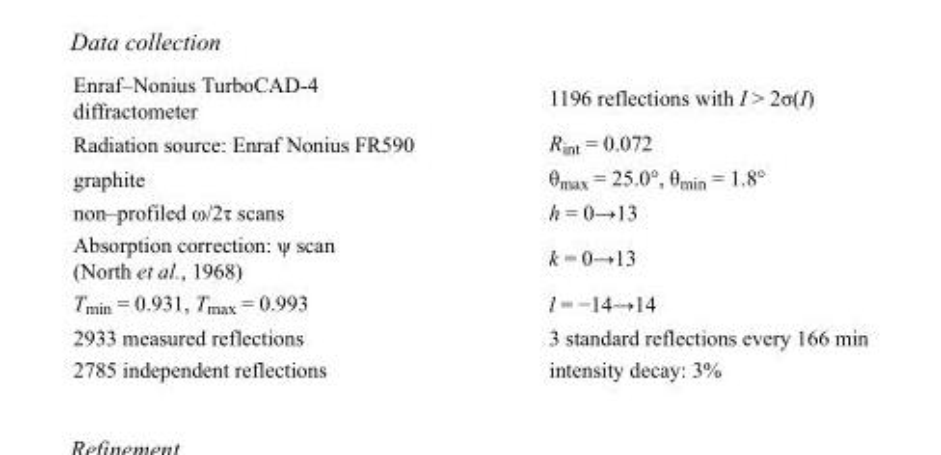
<table><tbody><tr><td>Enraf–Nonius TurboCAD-4 diffractometer</td><td>1196 reflections with I &gt; 2σ(I)</td></tr><tr><td>Radiation source: Enraf Nonius FR590</td><td>R<sub>int</sub> = 0.072</td></tr><tr><td>graphite</td><td>θ<sub>max</sub> = 25.0°, θ<sub>min</sub> = 1.8°</td></tr><tr><td>non–profiled ω/2τ scans</td><td>h = 0→13</td></tr><tr><td>Absorption correction: ψ scan (North et al., 1968)</td><td>k = 0→13</td></tr><tr><td>T<sub>min</sub> = 0.931, T<sub>max</sub> = 0.993</td><td>l = −14→14</td></tr><tr><td>2933 measured reflections</td><td>3 standard reflections every 166 min</td></tr><tr><td>2785 independent reflections</td><td>intensity decay: 3%</td></tr></tbody></table>